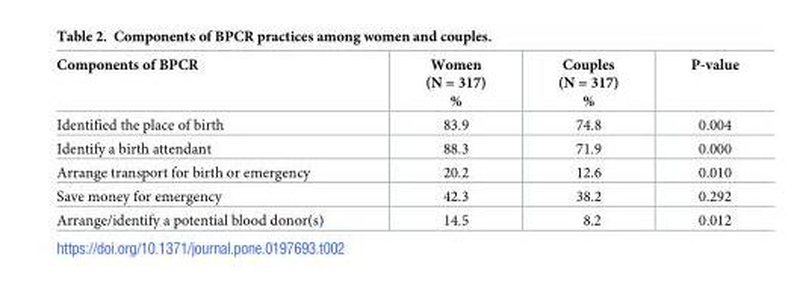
<table><thead><tr><td>Components of BPCR</td><td>Women (N = 317) %</td><td>Couples (N = 317) %</td><td>P-value</td></tr></thead><tbody><tr><td>Identified the place of birth</td><td>83.9</td><td>74.8</td><td>0.004</td></tr><tr><td>Identify a birth attendant</td><td>88.3</td><td>71.9</td><td>0.000</td></tr><tr><td>Arrange transport for birth or emergency</td><td>20.2</td><td>12.6</td><td>0.010</td></tr><tr><td>Save money for emergency</td><td>42.3</td><td>38.2</td><td>0.292</td></tr><tr><td>Arrange/identify a potential blood donor(s)</td><td>14.5</td><td>8.2</td><td>0.012</td></tr></tbody></table>